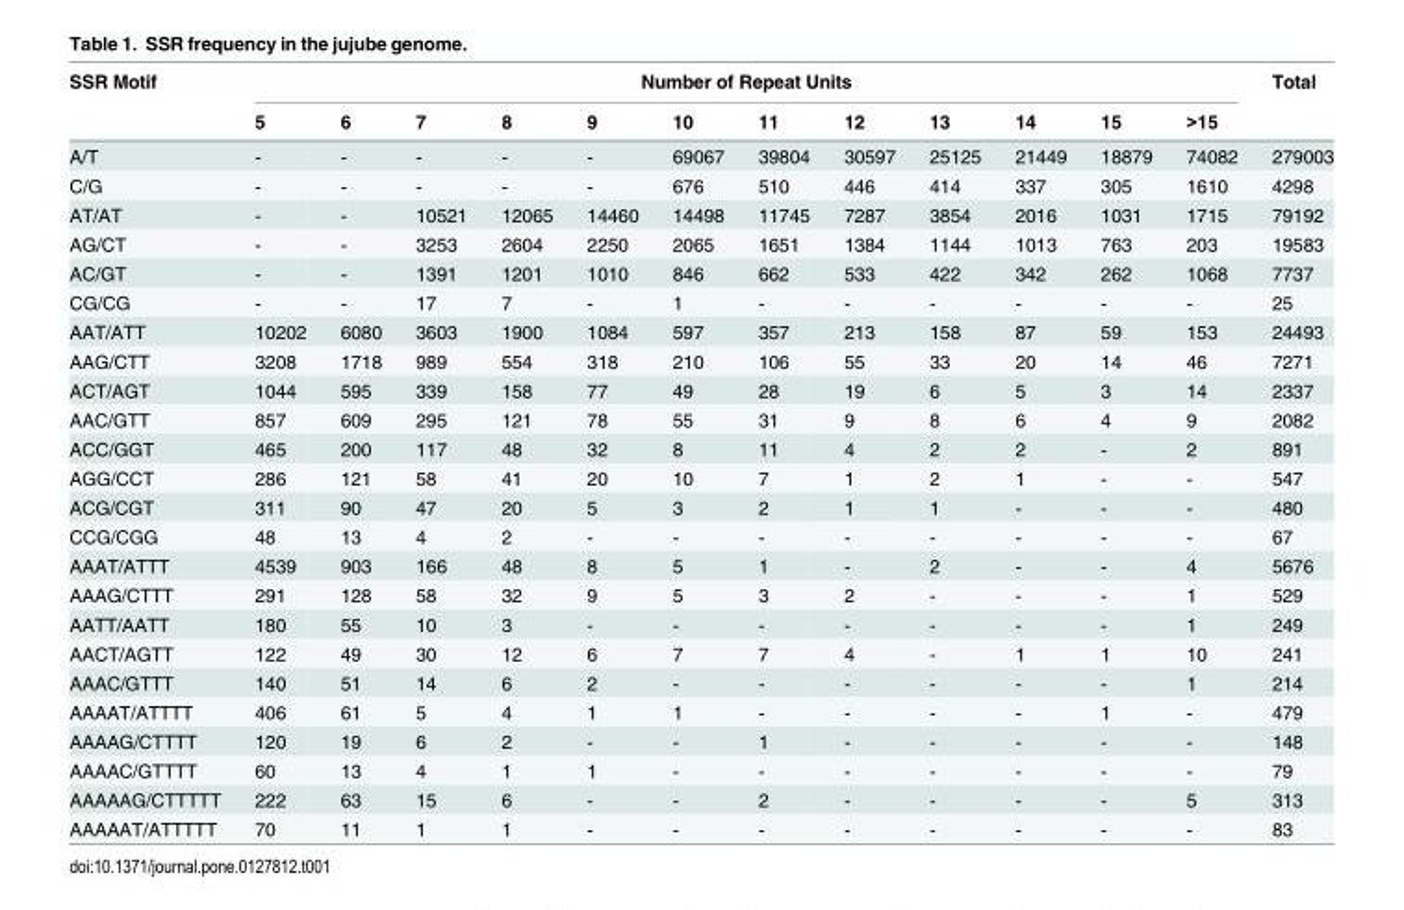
<table><thead><tr><td rowspan="2">SSR Motif</td><td colspan="12">Number of Repeat Units</td><td rowspan="2">Total</td></tr><tr><td>5</td><td>6</td><td>7</td><td>8</td><td>9</td><td>10</td><td>11</td><td>12</td><td>13</td><td>14</td><td>15</td><td>&gt;15</td></tr></thead><tbody><tr><td>A/T</td><td>-</td><td>-</td><td>-</td><td>-</td><td>-</td><td>69067</td><td>39804</td><td>30597</td><td>25125</td><td>21449</td><td>18879</td><td>74082</td><td>279003</td></tr><tr><td>C/G</td><td>-</td><td>-</td><td>-</td><td>-</td><td>-</td><td>676</td><td>510</td><td>446</td><td>414</td><td>337</td><td>305</td><td>1610</td><td>4298</td></tr><tr><td>AT/AT</td><td>-</td><td>-</td><td>10521</td><td>12065</td><td>14460</td><td>14498</td><td>11745</td><td>7287</td><td>3854</td><td>2016</td><td>1031</td><td>1715</td><td>79192</td></tr><tr><td>AG/CT</td><td>-</td><td>-</td><td>3253</td><td>2604</td><td>2250</td><td>2065</td><td>1651</td><td>1384</td><td>1144</td><td>1013</td><td>763</td><td>203</td><td>19583</td></tr><tr><td>AC/GT</td><td>-</td><td>-</td><td>1391</td><td>1201</td><td>1010</td><td>846</td><td>662</td><td>533</td><td>422</td><td>342</td><td>262</td><td>1068</td><td>7737</td></tr><tr><td>CG/CG</td><td>-</td><td>-</td><td>17</td><td>7</td><td>-</td><td>1</td><td>-</td><td>-</td><td>-</td><td>-</td><td>-</td><td>-</td><td>25</td></tr><tr><td>AAT/ATT</td><td>10202</td><td>6080</td><td>3603</td><td>1900</td><td>1084</td><td>597</td><td>357</td><td>213</td><td>158</td><td>87</td><td>59</td><td>153</td><td>24493</td></tr><tr><td>AAG/CTT</td><td>3208</td><td>1718</td><td>989</td><td>554</td><td>318</td><td>210</td><td>106</td><td>55</td><td>33</td><td>20</td><td>14</td><td>46</td><td>7271</td></tr><tr><td>ACT/AGT</td><td>1044</td><td>595</td><td>339</td><td>158</td><td>77</td><td>49</td><td>28</td><td>19</td><td>6</td><td>5</td><td>3</td><td>14</td><td>2337</td></tr><tr><td>AAC/GTT</td><td>857</td><td>609</td><td>295</td><td>121</td><td>78</td><td>55</td><td>31</td><td>9</td><td>8</td><td>6</td><td>4</td><td>9</td><td>2082</td></tr><tr><td>ACC/GGT</td><td>465</td><td>200</td><td>117</td><td>48</td><td>32</td><td>8</td><td>11</td><td>4</td><td>2</td><td>2</td><td>-</td><td>2</td><td>891</td></tr><tr><td>AGG/CCT</td><td>286</td><td>121</td><td>58</td><td>41</td><td>20</td><td>10</td><td>7</td><td>1</td><td>2</td><td>1</td><td>-</td><td>-</td><td>547</td></tr><tr><td>ACG/CGT</td><td>311</td><td>90</td><td>47</td><td>20</td><td>5</td><td>3</td><td>2</td><td>1</td><td>1</td><td>-</td><td>-</td><td>-</td><td>480</td></tr><tr><td>CCG/CGG</td><td>48</td><td>13</td><td>4</td><td>2</td><td>-</td><td>-</td><td>-</td><td>-</td><td>-</td><td>-</td><td>-</td><td>-</td><td>67</td></tr><tr><td>AAAT/ATTT</td><td>4539</td><td>903</td><td>166</td><td>48</td><td>8</td><td>5</td><td>1</td><td>-</td><td>2</td><td>-</td><td>-</td><td>4</td><td>5676</td></tr><tr><td>AAAG/CTTT</td><td>291</td><td>128</td><td>58</td><td>32</td><td>9</td><td>5</td><td>3</td><td>2</td><td>-</td><td>-</td><td>-</td><td>1</td><td>529</td></tr><tr><td>AATT/AATT</td><td>180</td><td>55</td><td>10</td><td>3</td><td>-</td><td>-</td><td>-</td><td>-</td><td>-</td><td>-</td><td>-</td><td>1</td><td>249</td></tr><tr><td>AACT/AGTT</td><td>122</td><td>49</td><td>30</td><td>12</td><td>6</td><td>7</td><td>7</td><td>4</td><td>-</td><td>1</td><td>1</td><td>10</td><td>241</td></tr><tr><td>AAAC/GTTT</td><td>140</td><td>51</td><td>14</td><td>6</td><td>2</td><td>-</td><td>-</td><td>-</td><td>-</td><td>-</td><td>-</td><td>1</td><td>214</td></tr><tr><td>AAAAT/ATTTT</td><td>406</td><td>61</td><td>5</td><td>4</td><td>1</td><td>1</td><td>-</td><td>-</td><td>-</td><td>-</td><td>1</td><td>-</td><td>479</td></tr><tr><td>AAAAG/CTTTT</td><td>120</td><td>19</td><td>6</td><td>2</td><td>-</td><td>-</td><td>1</td><td>-</td><td>-</td><td>-</td><td>-</td><td>-</td><td>148</td></tr><tr><td>AAAAC/GTTTT</td><td>60</td><td>13</td><td>4</td><td>1</td><td>1</td><td>-</td><td>-</td><td>-</td><td>-</td><td>-</td><td>-</td><td>-</td><td>79</td></tr><tr><td>AAAAAG/CTTTTT</td><td>222</td><td>63</td><td>15</td><td>6</td><td>-</td><td>-</td><td>2</td><td>-</td><td>-</td><td>-</td><td>-</td><td>5</td><td>313</td></tr><tr><td>AAAAAT/ATTTTT</td><td>70</td><td>11</td><td>1</td><td>1</td><td>-</td><td>-</td><td>-</td><td>-</td><td>-</td><td>-</td><td>-</td><td>-</td><td>83</td></tr></tbody></table>